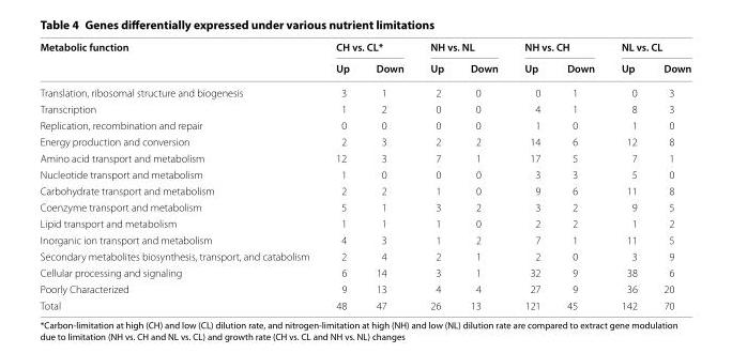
<table><thead><tr><td rowspan="2">Metabolic function</td><td colspan="2">CH vs. CL*</td><td colspan="2">NH vs. NL</td><td colspan="2">NH vs. CH</td><td colspan="2">NL vs. CL</td></tr><tr><td>Up</td><td>Down</td><td>Up</td><td>Down</td><td>Up</td><td>Down</td><td>Up</td><td>Down</td></tr></thead><tbody><tr><td>Translation, ribosomal structure and biogenesis</td><td>3</td><td>1</td><td>2</td><td>0</td><td>0</td><td>1</td><td>0</td><td>3</td></tr><tr><td>Transcription</td><td>1</td><td>2</td><td>0</td><td>0</td><td>4</td><td>1</td><td>8</td><td>3</td></tr><tr><td>Replication, recombination and repair</td><td>0</td><td>0</td><td>0</td><td>0</td><td>1</td><td>0</td><td>1</td><td>0</td></tr><tr><td>Energy production and conversion</td><td>2</td><td>3</td><td>2</td><td>2</td><td>14</td><td>6</td><td>12</td><td>8</td></tr><tr><td>Amino acid transport and metabolism</td><td>12</td><td>3</td><td>7</td><td>1</td><td>17</td><td>5</td><td>7</td><td>1</td></tr><tr><td>Nucleotide transport and metabolism</td><td>1</td><td>0</td><td>0</td><td>0</td><td>3</td><td>3</td><td>5</td><td>0</td></tr><tr><td>Carbohydrate transport and metabolism</td><td>2</td><td>2</td><td>1</td><td>0</td><td>9</td><td>6</td><td>11</td><td>8</td></tr><tr><td>Coenzyme transport and metabolism</td><td>5</td><td>1</td><td>3</td><td>2</td><td>3</td><td>2</td><td>9</td><td>5</td></tr><tr><td>Lipid transport and metabolism</td><td>1</td><td>1</td><td>1</td><td>0</td><td>2</td><td>2</td><td>1</td><td>2</td></tr><tr><td>Inorganic ion transport and metabolism</td><td>4</td><td>3</td><td>1</td><td>2</td><td>7</td><td>1</td><td>11</td><td>5</td></tr><tr><td>Secondary metabolites biosynthesis, transport, and catabolism</td><td>2</td><td>4</td><td>2</td><td>1</td><td>2</td><td>0</td><td>3</td><td>9</td></tr><tr><td>Cellular processing and signaling</td><td>6</td><td>14</td><td>3</td><td>1</td><td>32</td><td>9</td><td>38</td><td>6</td></tr><tr><td>Poorly Characterized</td><td>9</td><td>13</td><td>4</td><td>4</td><td>27</td><td>9</td><td>36</td><td>20</td></tr><tr><td>Total</td><td>48</td><td>47</td><td>26</td><td>13</td><td>121</td><td>45</td><td>142</td><td>70</td></tr></tbody></table>